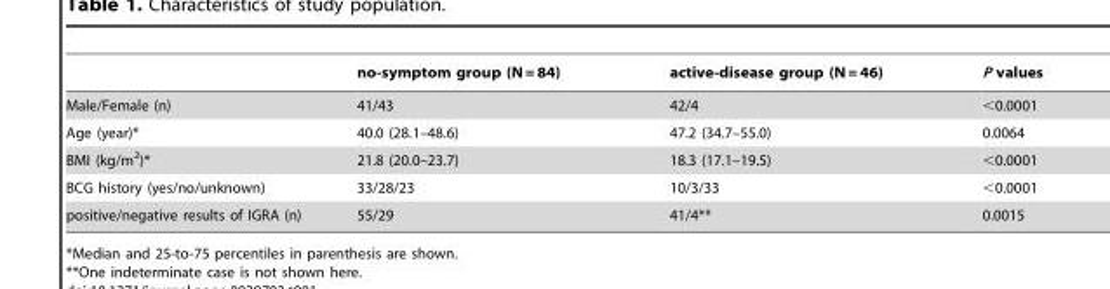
<table><thead><tr><td></td><td>no-symptom group (N = 84)</td><td>active-disease group (N = 46)</td><td>P values</td></tr></thead><tbody><tr><td>Male/Female (n)</td><td>41/43</td><td>42/4</td><td>&lt;0.0001</td></tr><tr><td>Age (year)*</td><td>40.0 (28.1–48.6)</td><td>47.2 (34.7–55.0)</td><td>0.0064</td></tr><tr><td>BMI (kg/m<sup>2</sup>)*</td><td>21.8 (20.0–23.7)</td><td>18.3 (17.1–19.5)</td><td>&lt;0.0001</td></tr><tr><td>BCG history (yes/no/unknown)</td><td>33/28/23</td><td>10/3/33</td><td>&lt;0.0001</td></tr><tr><td>positive/negative results of IGRA (n)</td><td>55/29</td><td>41/4**</td><td>0.0015</td></tr></tbody></table>